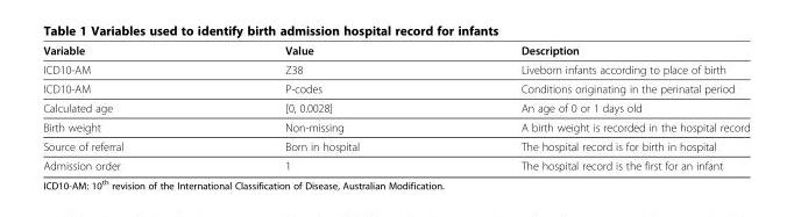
<table><thead><tr><td>Variable</td><td>Value</td><td>Description</td></tr></thead><tbody><tr><td>ICD10-AM</td><td>Z38</td><td>Liveborn infants according to place of birth</td></tr><tr><td>ICD10-AM</td><td>P-codes</td><td>Conditions originating in the perinatal period</td></tr><tr><td>Calculated age</td><td>[0, 0.0028]</td><td>An age of 0 or 1 days old</td></tr><tr><td>Birth weight</td><td>Non-missing</td><td>A birth weight is recorded in the hospital record</td></tr><tr><td>Source of referral</td><td>Born in hospital</td><td>The hospital record is for birth in hospital</td></tr><tr><td>Admission order</td><td>1</td><td>The hospital record is the first for an infant</td></tr></tbody></table>